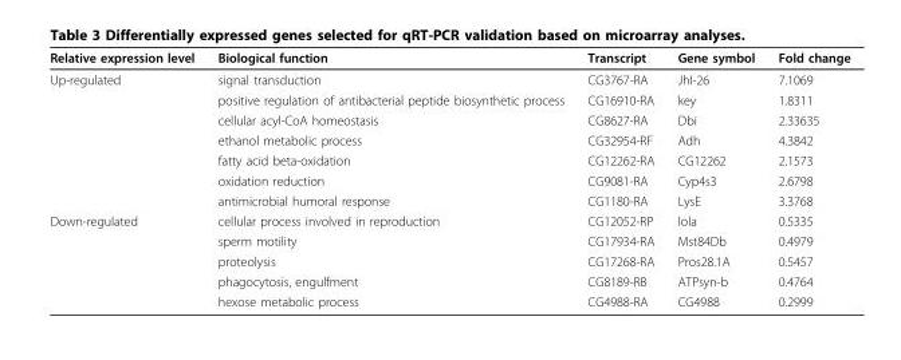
<table><thead><tr><td>Relative expression level</td><td>Biological function</td><td>Transcript</td><td>Gene symbol</td><td>Fold change</td></tr></thead><tbody><tr><td rowspan="7">Up-regulated</td><td>signal transduction</td><td>CG3767-RA</td><td>JhI-26</td><td>7.1069</td></tr><tr><td>positive regulation of antibacterial peptide biosynthetic process</td><td>CG16910-RA</td><td>key</td><td>1.8311</td></tr><tr><td>cellular acyl-CoA homeostasis</td><td>CG8627-RA</td><td>Dbi</td><td>2.33635</td></tr><tr><td>ethanol metabolic process</td><td>CG32954-RF</td><td>Adh</td><td>4.3842</td></tr><tr><td>fatty acid beta-oxidation</td><td>CG12262-RA</td><td>CG12262</td><td>2.1573</td></tr><tr><td>oxidation reduction</td><td>CG9081-RA</td><td>Cyp4s3</td><td>2.6798</td></tr><tr><td>antimicrobial humoral response</td><td>CG1180-RA</td><td>LysE</td><td>3.3768</td></tr><tr><td rowspan="5">Down-regulated</td><td>cellular process involved in reproduction</td><td>CG12052-RP</td><td>lola</td><td>0.5335</td></tr><tr><td>sperm motility</td><td>CG17934-RA</td><td>Mst84Db</td><td>0.4979</td></tr><tr><td>proteolysis</td><td>CG17268-RA</td><td>Pros28.1A</td><td>0.5457</td></tr><tr><td>phagocytosis, engulfment</td><td>CG8189-RB</td><td>ATPsyn-b</td><td>0.4764</td></tr><tr><td>hexose metabolic process</td><td>CG4988-RA</td><td>CG4988</td><td>0.2999</td></tr></tbody></table>